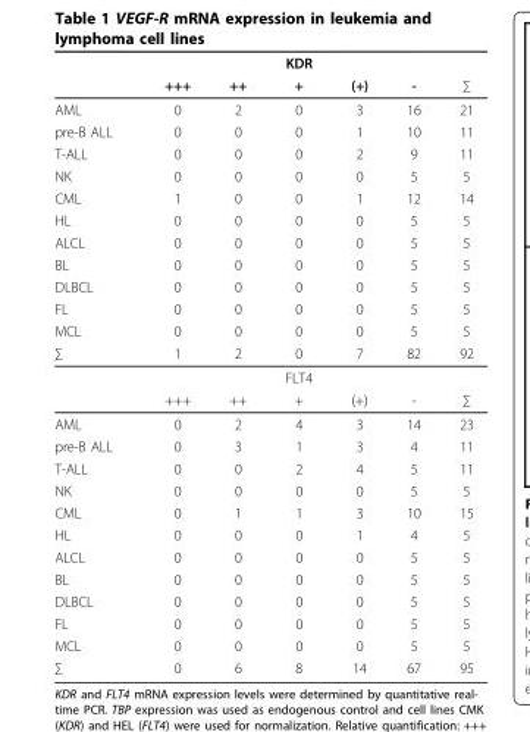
<table><thead><tr><td rowspan="2"></td><td rowspan="2">+++</td><td rowspan="2">++</td><td rowspan="2">KDR +</td><td rowspan="2">(+)</td><td rowspan="2">-</td><td rowspan="2">∑</td></tr><tr></tr></thead><tbody><tr><td>AML</td><td>0</td><td>2</td><td>0</td><td>3</td><td>16</td><td>21</td></tr><tr><td>pre-B ALL</td><td>0</td><td>0</td><td>0</td><td>1</td><td>10</td><td>11</td></tr><tr><td>T-ALL</td><td>0</td><td>0</td><td>0</td><td>2</td><td>9</td><td>11</td></tr><tr><td>NK</td><td>0</td><td>0</td><td>0</td><td>0</td><td>5</td><td>5</td></tr><tr><td>CML</td><td>1</td><td>0</td><td>0</td><td>1</td><td>12</td><td>14</td></tr><tr><td>HL</td><td>0</td><td>0</td><td>0</td><td>0</td><td>5</td><td>5</td></tr><tr><td>ALCL</td><td>0</td><td>0</td><td>0</td><td>0</td><td>5</td><td>5</td></tr><tr><td>BL</td><td>0</td><td>0</td><td>0</td><td>0</td><td>5</td><td>5</td></tr><tr><td>DLBCL</td><td>0</td><td>0</td><td>0</td><td>0</td><td>5</td><td>5</td></tr><tr><td>FL</td><td>0</td><td>0</td><td>0</td><td>0</td><td>5</td><td>5</td></tr><tr><td>MCL</td><td>0</td><td>0</td><td>0</td><td>0</td><td>5</td><td>5</td></tr><tr><td rowspan="3">∑</td><td>1</td><td>2</td><td>0</td><td>7</td><td>82</td><td>92</td></tr><tr><td></td><td></td><td>FLT4</td><td></td><td></td><td></td></tr><tr><td>+++</td><td>++</td><td>+</td><td>(+)</td><td>-</td><td>∑</td></tr><tr><td>AML</td><td>0</td><td>2</td><td>4</td><td>3</td><td>14</td><td>23</td></tr><tr><td>pre-B ALL</td><td>0</td><td>3</td><td>1</td><td>3</td><td>4</td><td>11</td></tr><tr><td>T-ALL</td><td>0</td><td>0</td><td>2</td><td>4</td><td>5</td><td>11</td></tr><tr><td>NK</td><td>0</td><td>0</td><td>0</td><td>0</td><td>5</td><td>5</td></tr><tr><td>CML</td><td>0</td><td>1</td><td>1</td><td>3</td><td>10</td><td>15</td></tr><tr><td>HL</td><td>0</td><td>0</td><td>0</td><td>1</td><td>4</td><td>5</td></tr><tr><td>ALCL</td><td>0</td><td>0</td><td>0</td><td>0</td><td>5</td><td>5</td></tr><tr><td>BL</td><td>0</td><td>0</td><td>0</td><td>0</td><td>5</td><td>5</td></tr><tr><td>DLBCL</td><td>0</td><td>0</td><td>0</td><td>0</td><td>5</td><td>5</td></tr><tr><td>FL</td><td>0</td><td>0</td><td>0</td><td>0</td><td>5</td><td>5</td></tr><tr><td>MCL</td><td>0</td><td>0</td><td>0</td><td>0</td><td>5</td><td>5</td></tr><tr><td>∑</td><td>0</td><td>6</td><td>8</td><td>14</td><td>67</td><td>95</td></tr></tbody></table>